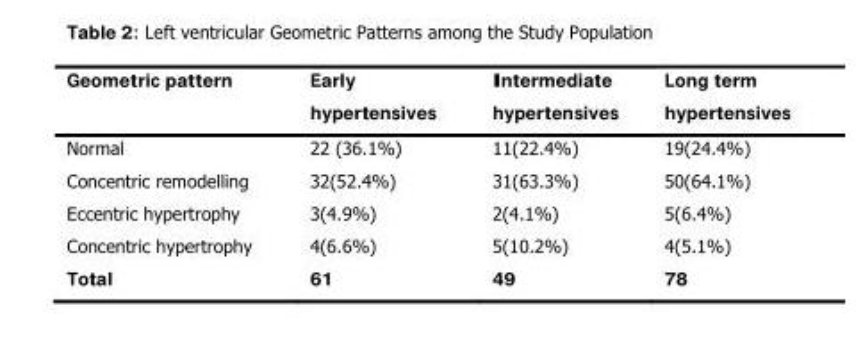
<table><thead><tr><td>Geometric pattern</td><td>Early hypertensives</td><td>Intermediate hypertensives</td><td>Long term hypertensives</td></tr></thead><tbody><tr><td>Normal</td><td>22 (36.1%)</td><td>11(22.4%)</td><td>19(24.4%)</td></tr><tr><td>Concentric remodelling</td><td>32(52.4%)</td><td>31(63.3%)</td><td>50(64.1%)</td></tr><tr><td>Eccentric hypertrophy</td><td>3(4.9%)</td><td>2(4.1%)</td><td>5(6.4%)</td></tr><tr><td>Concentric hypertrophy</td><td>4(6.6%)</td><td>5(10.2%)</td><td>4(5.1%)</td></tr><tr><td>Total</td><td>61</td><td>49</td><td>78</td></tr></tbody></table>